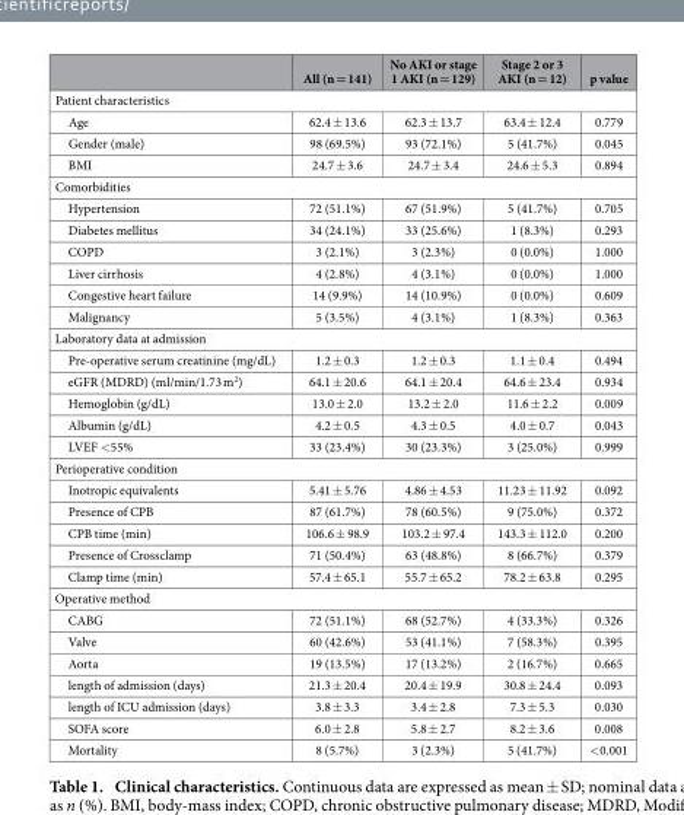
<table><thead><tr><td></td><td>All (n = 141)</td><td>No AKI or stage 1 AKI (n = 129)</td><td>Stage 2 or 3 AKI (n = 12)</td><td>p value</td></tr></thead><tbody><tr><td colspan="5">Patient characteristics</td></tr><tr><td>Age</td><td>62.4 ± 13.6</td><td>62.3 ± 13.7</td><td>63.4 ± 12.4</td><td>0.779</td></tr><tr><td>Gender (male)</td><td>98 (69.5%)</td><td>93 (72.1%)</td><td>5 (41.7%)</td><td>0.045</td></tr><tr><td>BMI</td><td>24.7 ± 3.6</td><td>24.7 ± 3.4</td><td>24.6 ± 5.3</td><td>0.894</td></tr><tr><td colspan="5">Comorbidities</td></tr><tr><td>Hypertension</td><td>72 (51.1%)</td><td>67 (51.9%)</td><td>5 (41.7%)</td><td>0.705</td></tr><tr><td>Diabetes mellitus</td><td>34 (24.1%)</td><td>33 (25.6%)</td><td>1 (8.3%)</td><td>0.293</td></tr><tr><td>COPD</td><td>3 (2.1%)</td><td>3 (2.3%)</td><td>0 (0.0%)</td><td>1.000</td></tr><tr><td>Liver cirrhosis</td><td>4 (2.8%)</td><td>4 (3.1%)</td><td>0 (0.0%)</td><td>1.000</td></tr><tr><td>Congestive heart failure</td><td>14 (9.9%)</td><td>14 (10.9%)</td><td>0 (0.0%)</td><td>0.609</td></tr><tr><td>Malignancy</td><td>5 (3.5%)</td><td>4 (3.1%)</td><td>1 (8.3%)</td><td>0.363</td></tr><tr><td colspan="5">Laboratory data at admission</td></tr><tr><td>Pre-operative serum creatinine (mg/dL)</td><td>1.2 ± 0.3</td><td>1.2 ± 0.3</td><td>1.1 ± 0.4</td><td>0.494</td></tr><tr><td>eGFR (MDRD) (ml/min/1.73 m<sup>2</sup>)</td><td>64.1 ± 20.6</td><td>64.1 ± 20.4</td><td>64.6 ± 23.4</td><td>0.934</td></tr><tr><td>Hemoglobin (g/dL)</td><td>13.0 ± 2.0</td><td>13.2 ± 2.0</td><td>11.6 ± 2.2</td><td>0.009</td></tr><tr><td>Albumin (g/dL)</td><td>4.2 ± 0.5</td><td>4.3 ± 0.5</td><td>4.0 ± 0.7</td><td>0.043</td></tr><tr><td>LVEF &lt; 55%</td><td>33 (23.4%)</td><td>30 (23.3%)</td><td>3 (25.0%)</td><td>0.999</td></tr><tr><td colspan="5">Perioperative condition</td></tr><tr><td>Inotropic equivalents</td><td>5.41 ± 5.76</td><td>4.86 ± 4.53</td><td>11.23 ± 11.92</td><td>0.092</td></tr><tr><td>Presence of CPB</td><td>87 (61.7%)</td><td>78 (60.5%)</td><td>9 (75.0%)</td><td>0.372</td></tr><tr><td>CPB time (min)</td><td>106.6 ± 98.9</td><td>103.2 ± 97.4</td><td>143.3 ± 112.0</td><td>0.200</td></tr><tr><td>Presence of Crossclamp</td><td>71 (50.4%)</td><td>63 (48.8%)</td><td>8 (66.7%)</td><td>0.379</td></tr><tr><td>Clamp time (min)</td><td>57.4 ± 65.1</td><td>55.7 ± 65.2</td><td>78.2 ± 63.8</td><td>0.295</td></tr><tr><td colspan="5">Operative method</td></tr><tr><td>CABG</td><td>72 (51.1%)</td><td>68 (52.7%)</td><td>4 (33.3%)</td><td>0.326</td></tr><tr><td>Valve</td><td>60 (42.6%)</td><td>53 (41.1%)</td><td>7 (58.3%)</td><td>0.395</td></tr><tr><td>Aorta</td><td>19 (13.5%)</td><td>17 (13.2%)</td><td>2 (16.7%)</td><td>0.665</td></tr><tr><td>length of admission (days)</td><td>21.3 ± 20.4</td><td>20.4 ± 19.9</td><td>30.8 ± 24.4</td><td>0.093</td></tr><tr><td>length of ICU admission (days)</td><td>3.8 ± 3.3</td><td>3.4 ± 2.8</td><td>7.3 ± 5.3</td><td>0.030</td></tr><tr><td>SOFA score</td><td>6.0 ± 2.8</td><td>5.8 ± 2.7</td><td>8.2 ± 3.6</td><td>0.008</td></tr><tr><td>Mortality</td><td>8 (5.7%)</td><td>3 (2.3%)</td><td>5 (41.7%)</td><td>&lt; 0.001</td></tr></tbody></table>